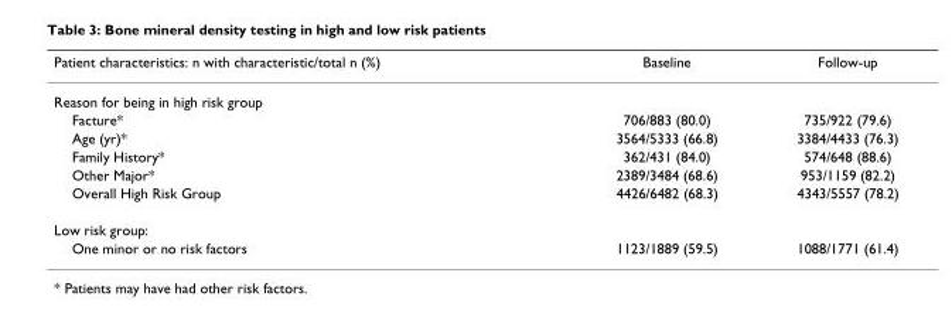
<table><thead><tr><td>Patient characteristics: n with characteristic/total n (%)</td><td>Baseline</td><td>Follow-up</td></tr></thead><tbody><tr><td colspan="3">Reason for being in high risk group</td></tr><tr><td>Facture*</td><td>706/883 (80.0)</td><td>735/922 (79.6)</td></tr><tr><td>Age (yr)*</td><td>3564/5333 (66.8)</td><td>3384/4433 (76.3)</td></tr><tr><td>Family History*</td><td>362/431 (84.0)</td><td>574/648 (88.6)</td></tr><tr><td>Other Major*</td><td>2389/3484 (68.6)</td><td>953/1159 (82.2)</td></tr><tr><td>Overall High Risk Group</td><td>4426/6482 (68.3)</td><td>4343/5557 (78.2)</td></tr><tr><td colspan="3">Low risk group:</td></tr><tr><td>One minor or no risk factors</td><td>1123/1889 (59.5)</td><td>1088/1771 (61.4)</td></tr></tbody></table>